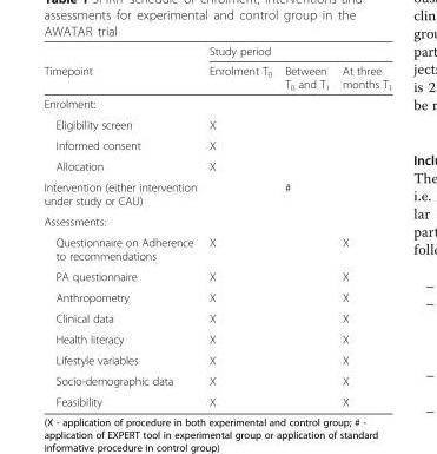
<table><thead><tr><td rowspan="2">Timepoint</td><td colspan="3">Study period</td></tr><tr><td>Enrolment T<sub>0</sub></td><td>Between T<sub>0</sub> and T<sub>1</sub></td><td>At three months T<sub>1</sub></td></tr></thead><tbody><tr><td colspan="4">Enrolment:</td></tr><tr><td>Eligibility screen</td><td>X</td><td></td><td></td></tr><tr><td>Informed consent</td><td>X</td><td></td><td></td></tr><tr><td>Allocation</td><td>X</td><td></td><td></td></tr><tr><td>Intervention (either intervention under study or CAU)</td><td></td><td>#</td><td></td></tr><tr><td colspan="4">Assessments:</td></tr><tr><td>Questionnaire on Adherence to recommendations</td><td>X</td><td></td><td>X</td></tr><tr><td>PA questionnaire</td><td>X</td><td></td><td>X</td></tr><tr><td>Anthropometry</td><td>X</td><td></td><td>X</td></tr><tr><td>Clinical data</td><td>X</td><td></td><td>X</td></tr><tr><td>Health literacy</td><td>X</td><td></td><td>X</td></tr><tr><td>Lifestyle variables</td><td>X</td><td></td><td>X</td></tr><tr><td>Socio-demographic data</td><td>X</td><td></td><td>X</td></tr><tr><td>Feasibility</td><td>X</td><td></td><td>X</td></tr></tbody></table>